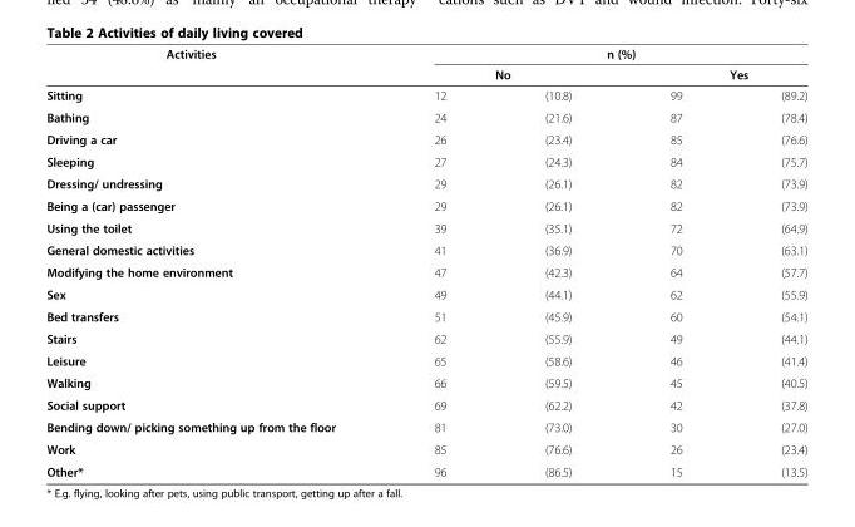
<table><thead><tr><td rowspan="3">Activities Sitting</td><td colspan="4">n (%)</td></tr><tr><td colspan="2">No</td><td colspan="2">Yes</td></tr><tr><td>12</td><td>(10.8)</td><td>99</td><td>(89.2)</td></tr></thead><tbody><tr><td>Bathing</td><td>24</td><td>(21.6)</td><td>87</td><td>(78.4)</td></tr><tr><td>Driving a car</td><td>26</td><td>(23.4)</td><td>85</td><td>(76.6)</td></tr><tr><td>Sleeping</td><td>27</td><td>(24.3)</td><td>84</td><td>(75.7)</td></tr><tr><td>Dressing/ undressing</td><td>29</td><td>(26.1)</td><td>82</td><td>(73.9)</td></tr><tr><td>Being a (car) passenger</td><td>29</td><td>(26.1)</td><td>82</td><td>(73.9)</td></tr><tr><td>Using the toilet</td><td>39</td><td>(35.1)</td><td>72</td><td>(64.9)</td></tr><tr><td>General domestic activities</td><td>41</td><td>(36.9)</td><td>70</td><td>(63.1)</td></tr><tr><td>Modifying the home environment</td><td>47</td><td>(42.3)</td><td>64</td><td>(57.7)</td></tr><tr><td>Sex</td><td>49</td><td>(44.1)</td><td>62</td><td>(55.9)</td></tr><tr><td>Bed transfers</td><td>51</td><td>(45.9)</td><td>60</td><td>(54.1)</td></tr><tr><td>Stairs</td><td>62</td><td>(55.9)</td><td>49</td><td>(44.1)</td></tr><tr><td>Leisure</td><td>65</td><td>(58.6)</td><td>46</td><td>(41.4)</td></tr><tr><td>Walking</td><td>66</td><td>(59.5)</td><td>45</td><td>(40.5)</td></tr><tr><td>Social support</td><td>69</td><td>(62.2)</td><td>42</td><td>(37.8)</td></tr><tr><td>Bending down/ picking something up from the floor</td><td>81</td><td>(73.0)</td><td>30</td><td>(27.0)</td></tr><tr><td>Work</td><td>85</td><td>(76.6)</td><td>26</td><td>(23.4)</td></tr><tr><td>Other*</td><td>96</td><td>(86.5)</td><td>15</td><td>(13.5)</td></tr></tbody></table>